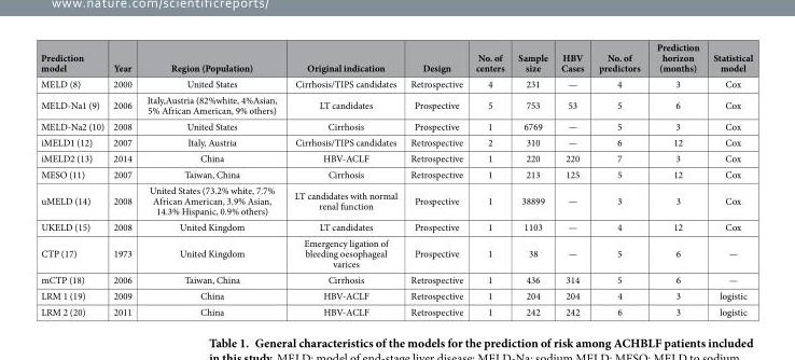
<table><thead><tr><td>Prediction model</td><td>Year</td><td>Region (Population)</td><td>Original indication</td><td>Design</td><td>No. of centers</td><td>Sample size</td><td>HBV Cases</td><td>No. of predictors</td><td>Prediction horizon (months)</td><td>Statistical model</td></tr></thead><tbody><tr><td>MELD (8)</td><td>2000</td><td>United States</td><td>Cirrhosis/TIPS candidates</td><td>Retrospective</td><td>4</td><td>231</td><td>—</td><td>4</td><td>3</td><td>Cox</td></tr><tr><td>MELD-Na1 (9)</td><td>2006</td><td>Italy,Austria (82%white, 4%Asian, 5% African American, 9% others)</td><td>LT candidates</td><td>Prospective</td><td>5</td><td>753</td><td>53</td><td>5</td><td>6</td><td>Cox</td></tr><tr><td>MELD-Na2 (10)</td><td>2008</td><td>United States</td><td>Cirrhosis</td><td>Prospective</td><td>1</td><td>6769</td><td>—</td><td>5</td><td>3</td><td>Cox</td></tr><tr><td>iMELD1 (12)</td><td>2007</td><td>Italy, Austria</td><td>Cirrhosis/TIPS candidates</td><td>Retrospective</td><td>2</td><td>310</td><td>—</td><td>6</td><td>12</td><td>Cox</td></tr><tr><td>iMELD2 (13)</td><td>2014</td><td>China</td><td>HBV-ACLF</td><td>Retrospective</td><td>1</td><td>220</td><td>220</td><td>7</td><td>3</td><td>Cox</td></tr><tr><td>MESO (11)</td><td>2007</td><td>Taiwan, China</td><td>Cirrhosis</td><td>Retrospective</td><td>1</td><td>213</td><td>125</td><td>5</td><td>12</td><td>Cox</td></tr><tr><td>uMELD (14)</td><td>2008</td><td>United States (73.2% white, 7.7% African American, 3.9% Asian, 14.3% Hispanic, 0.9% others)</td><td>LT candidates with normal renal function</td><td>Prospective</td><td>1</td><td>38899</td><td>—</td><td>3</td><td>3</td><td>Cox</td></tr><tr><td>UKELD (15)</td><td>2008</td><td>United Kingdom</td><td>LT candidates</td><td>Prospective</td><td>1</td><td>1103</td><td>—</td><td>4</td><td>12</td><td>Cox</td></tr><tr><td>CTP (17)</td><td>1973</td><td>United Kingdom</td><td>Emergency ligation of bleeding oesophageal varices</td><td>Prospective</td><td>1</td><td>38</td><td>—</td><td>5</td><td>6</td><td>—</td></tr><tr><td>mCTP (18)</td><td>2006</td><td>Taiwan, China</td><td>Cirrhosis</td><td>Retrospective</td><td>1</td><td>436</td><td>314</td><td>5</td><td>6</td><td>—</td></tr><tr><td>LRM 1 (19)</td><td>2009</td><td>China</td><td>HBV-ACLF</td><td>Retrospective</td><td>1</td><td>204</td><td>204</td><td>4</td><td>3</td><td>logistic</td></tr><tr><td>LRM 2 (20)</td><td>2011</td><td>China</td><td>HBV-ACLF</td><td>Retrospective</td><td>1</td><td>242</td><td>242</td><td>6</td><td>3</td><td>logistic</td></tr></tbody></table>